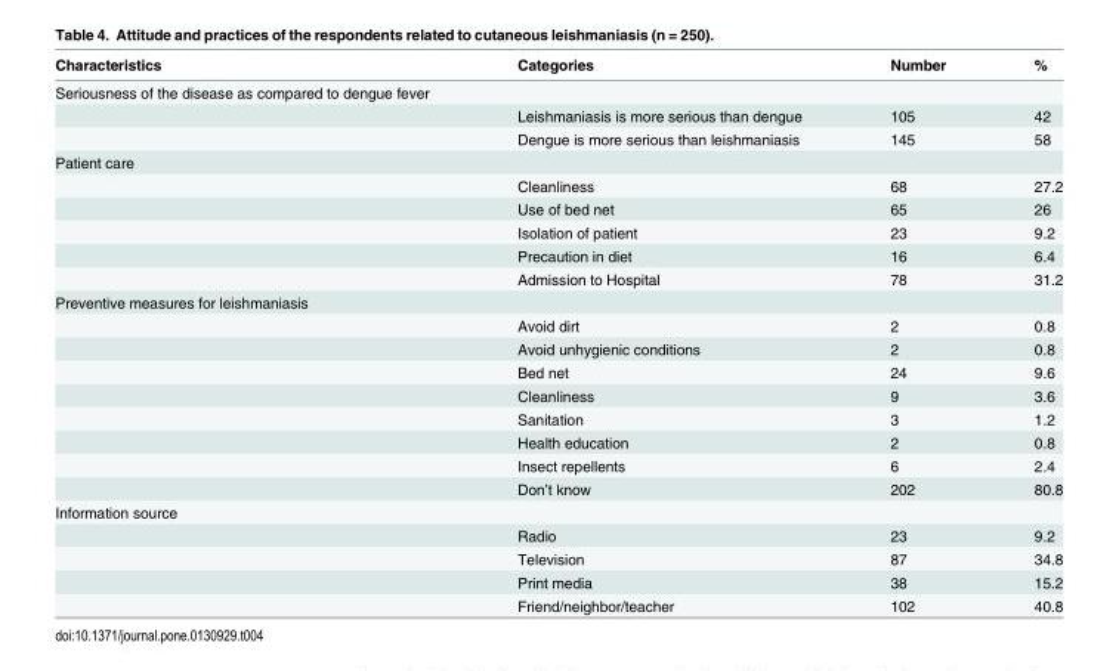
<table><thead><tr><td>Characteristics</td><td>Categories</td><td>Number</td><td>%</td></tr></thead><tbody><tr><td colspan="4">Seriousness of the disease as compared to dengue fever</td></tr><tr><td></td><td>Leishmaniasis is more serious than dengue</td><td>105</td><td>42</td></tr><tr><td></td><td>Dengue is more serious than leishmaniasis</td><td>145</td><td>58</td></tr><tr><td colspan="4">Patient care</td></tr><tr><td></td><td>Cleanliness</td><td>68</td><td>27.2</td></tr><tr><td></td><td>Use of bed net</td><td>65</td><td>26</td></tr><tr><td></td><td>Isolation of patient</td><td>23</td><td>9.2</td></tr><tr><td></td><td>Precaution in diet</td><td>16</td><td>6.4</td></tr><tr><td></td><td>Admission to Hospital</td><td>78</td><td>31.2</td></tr><tr><td colspan="4">Preventive measures for leishmaniasis</td></tr><tr><td></td><td>Avoid dirt</td><td>2</td><td>0.8</td></tr><tr><td></td><td>Avoid unhygienic conditions</td><td>2</td><td>0.8</td></tr><tr><td></td><td>Bed net</td><td>24</td><td>9.6</td></tr><tr><td></td><td>Cleanliness</td><td>9</td><td>3.6</td></tr><tr><td></td><td>Sanitation</td><td>3</td><td>1.2</td></tr><tr><td></td><td>Health education</td><td>2</td><td>0.8</td></tr><tr><td></td><td>Insect repellents</td><td>6</td><td>2.4</td></tr><tr><td></td><td>Don’t know</td><td>202</td><td>80.8</td></tr><tr><td colspan="4">Information source</td></tr><tr><td></td><td>Radio</td><td>23</td><td>9.2</td></tr><tr><td></td><td>Television</td><td>87</td><td>34.8</td></tr><tr><td></td><td>Print media</td><td>38</td><td>15.2</td></tr><tr><td></td><td>Friend/neighbor/teacher</td><td>102</td><td>40.8</td></tr></tbody></table>